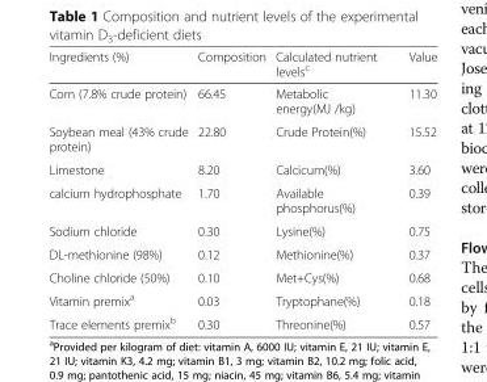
<table><thead><tr><td>Ingredients (%)</td><td>Composition</td><td>Calculated nutrient levels<sup>c</sup></td><td>Value</td></tr></thead><tbody><tr><td>Corn (7.8% crude protein)</td><td>66.45</td><td>Metabolic energy(MJ /kg)</td><td>11.30</td></tr><tr><td>Soybean meal (43% crude protein)</td><td>22.80</td><td>Crude Protein(%)</td><td>15.52</td></tr><tr><td>Limestone</td><td>8.20</td><td>Calcicum(%)</td><td>3.60</td></tr><tr><td>calcium hydrophosphate</td><td>1.70</td><td>Available phosphorus(%)</td><td>0.39</td></tr><tr><td>Sodium chloride</td><td>0.30</td><td>Lysine(%)</td><td>0.75</td></tr><tr><td>DL-methionine (98%)</td><td>0.12</td><td>Methionine(%)</td><td>0.37</td></tr><tr><td>Choline chloride (50%)</td><td>0.10</td><td>Met+Cys(%)</td><td>0.68</td></tr><tr><td>Vitamin premix<sup>a</sup></td><td>0.03</td><td>Tryptophane(%)</td><td>0.18</td></tr><tr><td>Trace elements premix<sup>b</sup></td><td>0.30</td><td>Threonine(%)</td><td>0.57</td></tr></tbody></table>